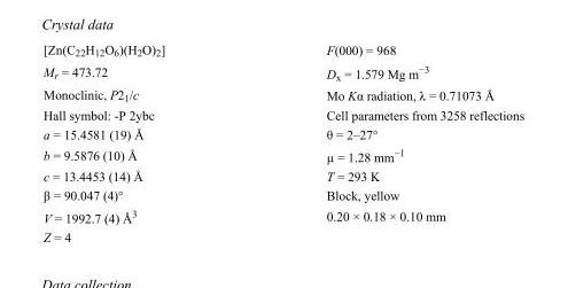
<table><tbody><tr><td>[Zn(C<sub>22</sub>H<sub>12</sub>O<sub>6</sub>)(H<sub>2</sub>O)<sub>2</sub>]</td><td>F(000) = 968</td></tr><tr><td>M<sub>r</sub> = 473.72</td><td>D<sub>x</sub> = 1.579 Mg m<sup>−3</sup></td></tr><tr><td>Monoclinic, P2<sub>1</sub>/c</td><td>Mo Kα radiation, λ = 0.71073 Å</td></tr><tr><td>Hall symbol: -P 2ybc</td><td>Cell parameters from 3258 reflections</td></tr><tr><td>a = 15.4581 (19) Å</td><td>θ = 2–27°</td></tr><tr><td>b = 9.5876 (10) Å</td><td>µ = 1.28 mm<sup>−1</sup></td></tr><tr><td>c = 13.4453 (14) Å</td><td>T = 293 K</td></tr><tr><td>β = 90.047 (4)°</td><td>Block, yellow</td></tr><tr><td>V = 1992.7 (4) Å<sup>3</sup></td><td>0.20 × 0.18 × 0.10 mm</td></tr><tr><td>Z = 4</td><td></td></tr></tbody></table>